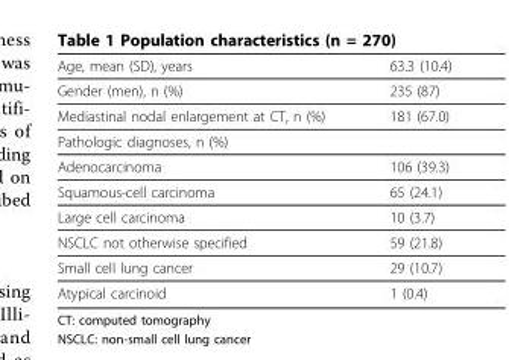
<table><thead><tr><td>Age, mean (SD), years</td><td>63.3 (10.4)</td></tr></thead><tbody><tr><td>Gender (men), n (%)</td><td>235 (87)</td></tr><tr><td>Mediastinal nodal enlargement at CT, n (%)</td><td>181 (67.0)</td></tr><tr><td colspan="2">Pathologic diagnoses, n (%)</td></tr><tr><td>Adenocarcinoma</td><td>106 (39.3)</td></tr><tr><td>Squamous-cell carcinoma</td><td>65 (24.1)</td></tr><tr><td>Large cell carcinoma</td><td>10 (3.7)</td></tr><tr><td>NSCLC not otherwise specified</td><td>59 (21.8)</td></tr><tr><td>Small cell lung cancer</td><td>29 (10.7)</td></tr><tr><td>Atypical carcinoid</td><td>1 (0.4)</td></tr></tbody></table>